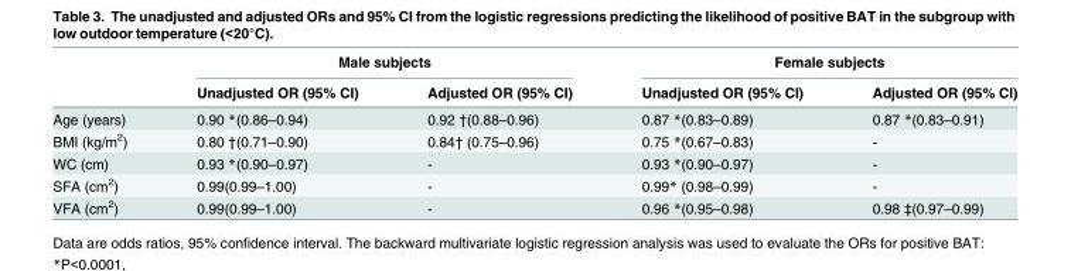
<table><thead><tr><td rowspan="2"></td><td colspan="2">Male subjects</td><td colspan="2">Female subjects</td></tr><tr><td>Unadjusted OR (95% CI)</td><td>Adjusted OR (95% CI)</td><td>Unadjusted OR (95% CI)</td><td>Adjusted OR (95% CI)</td></tr></thead><tbody><tr><td>Age (years)</td><td>0.90 *(0.86–0.94)</td><td>0.92 †(0.88–0.96)</td><td>0.87 *(0.83–0.89)</td><td>0.87 *(0.83–0.91)</td></tr><tr><td>BMI (kg/m<sup>2</sup>)</td><td>0.80 †(0.71–0.90)</td><td>0.84† (0.75–0.96)</td><td>0.75 *(0.67–0.83)</td><td>-</td></tr><tr><td>WC (cm)</td><td>0.93 *(0.90–0.97)</td><td>-</td><td>0.93 *(0.90–0.97)</td><td>-</td></tr><tr><td>SFA (cm<sup>2</sup>)</td><td>0.99(0.99–1.00)</td><td>-</td><td>0.99* (0.98–0.99)</td><td>-</td></tr><tr><td>VFA (cm<sup>2</sup>)</td><td>0.99(0.99–1.00)</td><td>-</td><td>0.96 *(0.95–0.98)</td><td>0.98 ‡(0.97–0.99)</td></tr></tbody></table>